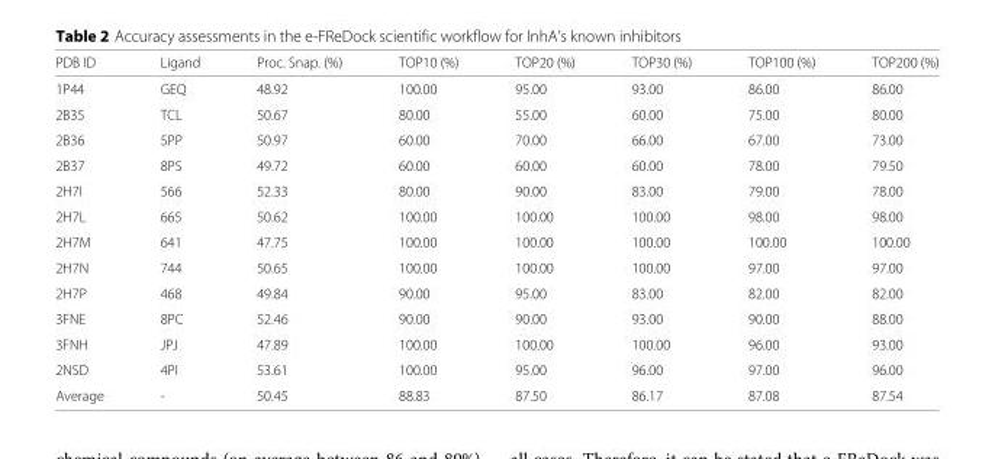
<table><thead><tr><td>PDB ID</td><td>Ligand</td><td>Proc. Snap. (%)</td><td>TOP10 (%)</td><td>TOP20 (%)</td><td>TOP30 (%)</td><td>TOP100 (%)</td><td>TOP200 (%)</td></tr></thead><tbody><tr><td>1P44</td><td>GEQ</td><td>48.92</td><td>100.00</td><td>95.00</td><td>93.00</td><td>86.00</td><td>86.00</td></tr><tr><td>2B35</td><td>TCL</td><td>50.67</td><td>80.00</td><td>55.00</td><td>60.00</td><td>75.00</td><td>80.00</td></tr><tr><td>2B36</td><td>5PP</td><td>50.97</td><td>60.00</td><td>70.00</td><td>66.00</td><td>67.00</td><td>73.00</td></tr><tr><td>2B37</td><td>8PS</td><td>49.72</td><td>60.00</td><td>60.00</td><td>60.00</td><td>78.00</td><td>79.50</td></tr><tr><td>2H7I</td><td>566</td><td>52.33</td><td>80.00</td><td>90.00</td><td>83.00</td><td>79.00</td><td>78.00</td></tr><tr><td>2H7L</td><td>665</td><td>50.62</td><td>100.00</td><td>100.00</td><td>100.00</td><td>98.00</td><td>98.00</td></tr><tr><td>2H7M</td><td>641</td><td>47.75</td><td>100.00</td><td>100.00</td><td>100.00</td><td>100.00</td><td>100.00</td></tr><tr><td>2H7N</td><td>744</td><td>50.65</td><td>100.00</td><td>100.00</td><td>100.00</td><td>97.00</td><td>97.00</td></tr><tr><td>2H7P</td><td>468</td><td>49.84</td><td>90.00</td><td>95.00</td><td>83.00</td><td>82.00</td><td>82.00</td></tr><tr><td>3FNE</td><td>8PC</td><td>52.46</td><td>90.00</td><td>90.00</td><td>93.00</td><td>90.00</td><td>88.00</td></tr><tr><td>3FNH</td><td>JPJ</td><td>47.89</td><td>100.00</td><td>100.00</td><td>100.00</td><td>96.00</td><td>93.00</td></tr><tr><td>2NSD</td><td>4PI</td><td>53.61</td><td>100.00</td><td>95.00</td><td>96.00</td><td>97.00</td><td>96.00</td></tr><tr><td>Average</td><td>-</td><td>50.45</td><td>88.83</td><td>87.50</td><td>86.17</td><td>87.08</td><td>87.54</td></tr></tbody></table>